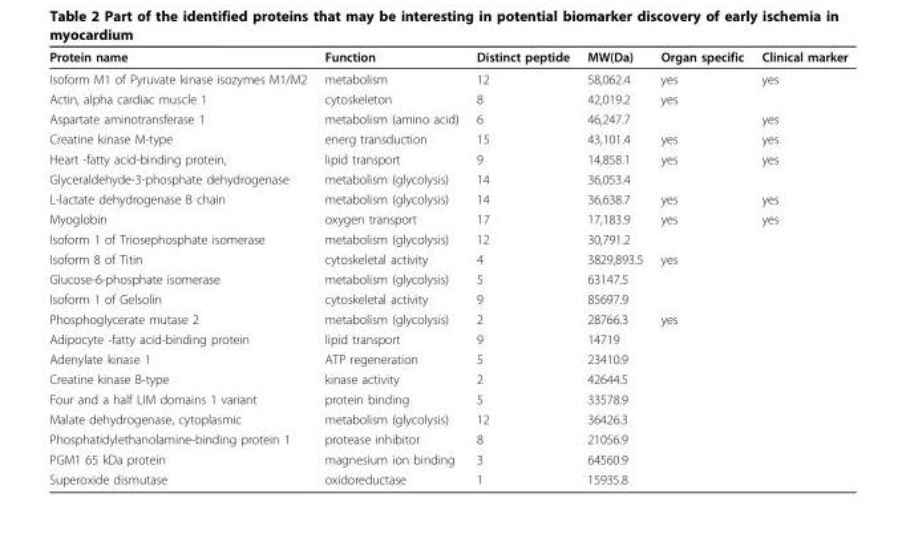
<table><thead><tr><td>Protein name</td><td>Function</td><td>Distinct peptide</td><td>MW(Da)</td><td>Organ specific</td><td>Clinical marker</td></tr></thead><tbody><tr><td>Isoform M1 of Pyruvate kinase isozymes M1/M2</td><td>metabolism</td><td>12</td><td>58,062.4</td><td>yes</td><td>yes</td></tr><tr><td>Actin, alpha cardiac muscle 1</td><td>cytoskeleton</td><td>8</td><td>42,019.2</td><td>yes</td><td></td></tr><tr><td>Aspartate aminotransferase 1</td><td>metabolism (amino acid)</td><td>6</td><td>46,247.7</td><td></td><td>yes</td></tr><tr><td>Creatine kinase M-type</td><td>energ transduction</td><td>15</td><td>43,101.4</td><td>yes</td><td>yes</td></tr><tr><td>Heart -fatty acid-binding protein,</td><td>lipid transport</td><td>9</td><td>14,858.1</td><td>yes</td><td>yes</td></tr><tr><td>Glyceraldehyde-3-phosphate dehydrogenase</td><td>metabolism (glycolysis)</td><td>14</td><td>36,053.4</td><td></td><td></td></tr><tr><td>L-lactate dehydrogenase B chain</td><td>metabolism (glycolysis)</td><td>14</td><td>36,638.7</td><td>yes</td><td>yes</td></tr><tr><td>Myoglobin</td><td>oxygen transport</td><td>17</td><td>17,183.9</td><td>yes</td><td>yes</td></tr><tr><td>Isoform 1 of Triosephosphate isomerase</td><td>metabolism (glycolysis)</td><td>12</td><td>30,791.2</td><td></td><td></td></tr><tr><td>Isoform 8 of Titin</td><td>cytoskeletal activity</td><td>4</td><td>3829,893.5</td><td>yes</td><td></td></tr><tr><td>Glucose-6-phosphate isomerase</td><td>metabolism (glycolysis)</td><td>5</td><td>63147.5</td><td></td><td></td></tr><tr><td>Isoform 1 of Gelsolin</td><td>cytoskeletal activity</td><td>9</td><td>85697.9</td><td></td><td></td></tr><tr><td>Phosphoglycerate mutase 2</td><td>metabolism (glycolysis)</td><td>2</td><td>28766.3</td><td>yes</td><td></td></tr><tr><td>Adipocyte -fatty acid-binding protein</td><td>lipid transport</td><td>9</td><td>14719</td><td></td><td></td></tr><tr><td>Adenylate kinase 1</td><td>ATP regeneration</td><td>5</td><td>23410.9</td><td></td><td></td></tr><tr><td>Creatine kinase B-type</td><td>kinase activity</td><td>2</td><td>42644.5</td><td></td><td></td></tr><tr><td>Four and a half LIM domains 1 variant</td><td>protein binding</td><td>5</td><td>33578.9</td><td></td><td></td></tr><tr><td>Malate dehydrogenase, cytoplasmic</td><td>metabolism (glycolysis)</td><td>12</td><td>36426.3</td><td></td><td></td></tr><tr><td>Phosphatidylethanolamine-binding protein 1</td><td>protease inhibitor</td><td>8</td><td>21056.9</td><td></td><td></td></tr><tr><td>PGM1 65 kDa protein</td><td>magnesium ion binding</td><td>3</td><td>64560.9</td><td></td><td></td></tr><tr><td>Superoxide dismutase</td><td>oxidoreductase</td><td>1</td><td>15935.8</td><td></td><td></td></tr></tbody></table>